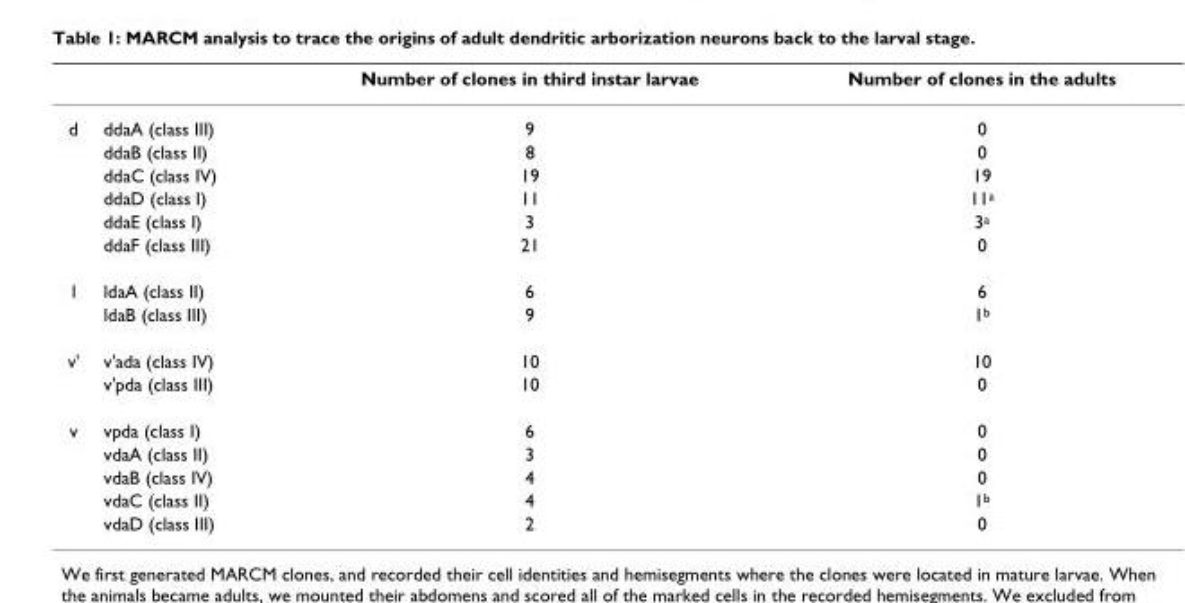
<table><thead><tr><td></td><td></td><td>Number of clones in third instar larvae</td><td>Number of clones in the adults</td></tr></thead><tbody><tr><td rowspan="6">d</td><td>ddaA (class III)</td><td>9</td><td>0</td></tr><tr><td>ddaB (class II)</td><td>8</td><td>0</td></tr><tr><td>ddaC (class IV)</td><td>19</td><td>19</td></tr><tr><td>ddaD (class I)</td><td>11</td><td>11<sup>a</sup></td></tr><tr><td>ddaE (class I)</td><td>3</td><td>3<sup>a</sup></td></tr><tr><td>ddaF (class III)</td><td>21</td><td>0</td></tr><tr><td rowspan="2">l</td><td>ldaA (class II)</td><td>6</td><td>6</td></tr><tr><td>ldaB (class III)</td><td>9</td><td>1<sup>b</sup></td></tr><tr><td rowspan="2">v&#x27;</td><td>v&#x27;ada (class IV)</td><td>10</td><td>10</td></tr><tr><td>v&#x27;pda (class III)</td><td>10</td><td>0</td></tr><tr><td rowspan="5">v</td><td>vpda (class I)</td><td>6</td><td>0</td></tr><tr><td>vdaA (class II)</td><td>3</td><td>0</td></tr><tr><td>vdaB (class IV)</td><td>4</td><td>0</td></tr><tr><td>vdaC (class II)</td><td>4</td><td>1<sup>b</sup></td></tr><tr><td>vdaD (class III)</td><td>2</td><td>0</td></tr></tbody></table>